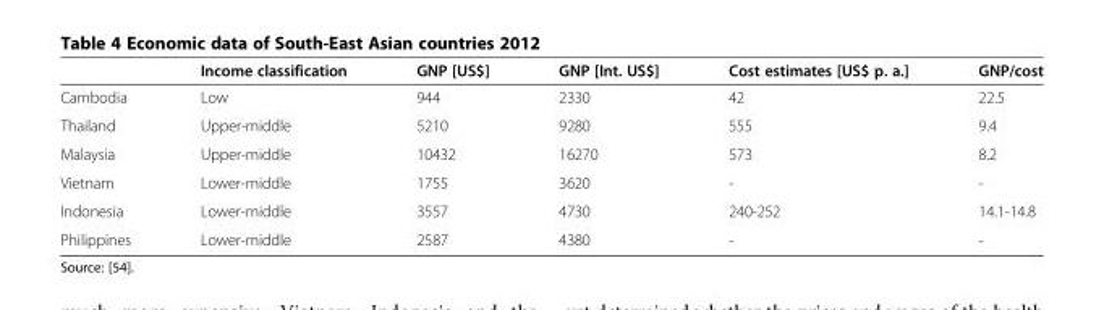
<table><thead><tr><td></td><td>Income classification</td><td>GNP [US$]</td><td>GNP [Int. US$]</td><td>Cost estimates [US$ p. a.]</td><td>GNP/cost</td></tr></thead><tbody><tr><td>Cambodia</td><td>Low</td><td>944</td><td>2330</td><td>42</td><td>22.5</td></tr><tr><td>Thailand</td><td>Upper-middle</td><td>5210</td><td>9280</td><td>555</td><td>9.4</td></tr><tr><td>Malaysia</td><td>Upper-middle</td><td>10432</td><td>16270</td><td>573</td><td>8.2</td></tr><tr><td>Vietnam</td><td>Lower-middle</td><td>1755</td><td>3620</td><td>-</td><td>-</td></tr><tr><td>Indonesia</td><td>Lower-middle</td><td>3557</td><td>4730</td><td>240-252</td><td>14.1-14.8</td></tr><tr><td>Philippines</td><td>Lower-middle</td><td>2587</td><td>4380</td><td>-</td><td>-</td></tr></tbody></table>